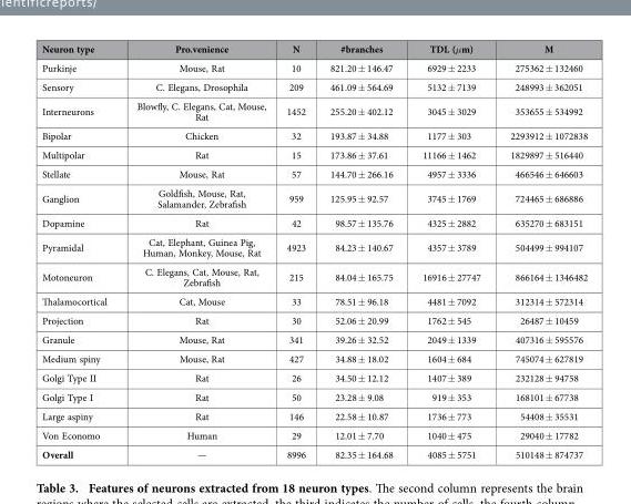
<table><thead><tr><td>Neuron type</td><td>Pro.venience</td><td>N</td><td>#branches</td><td>TDL (μm)</td><td>M</td></tr></thead><tbody><tr><td>Purkinje</td><td>Mouse, Rat</td><td>10</td><td>821.20 ± 146.47</td><td>6929 ± 2233</td><td>275362 ± 132460</td></tr><tr><td>Sensory</td><td>C. Elegans, Drosophila</td><td>209</td><td>461.09 ± 564.69</td><td>5132 ± 7139</td><td>248993 ± 362051</td></tr><tr><td>Interneurons</td><td>Blowfly, C. Elegans, Cat, Mouse, Rat</td><td>1452</td><td>255.20 ± 402.12</td><td>3045 ± 3029</td><td>353655 ± 534992</td></tr><tr><td>Bipolar</td><td>Chicken</td><td>32</td><td>193.87 ± 34.88</td><td>1177 ± 303</td><td>2293912 ± 1072838</td></tr><tr><td>Multipolar</td><td>Rat</td><td>15</td><td>173.86 ± 37.61</td><td>11166 ± 1462</td><td>1829897 ± 516440</td></tr><tr><td>Stellate</td><td>Mouse, Rat</td><td>57</td><td>144.70 ± 266.16</td><td>4957 ± 3336</td><td>466546 ± 646603</td></tr><tr><td>Ganglion</td><td>Goldfish, Mouse, Rat, Salamander, Zebrafish</td><td>959</td><td>125.95 ± 92.57</td><td>3745 ± 1769</td><td>724465 ± 686886</td></tr><tr><td>Dopamine</td><td>Rat</td><td>42</td><td>98.57 ± 135.76</td><td>4325 ± 2882</td><td>635270 ± 683151</td></tr><tr><td>Pyramidal</td><td>Cat, Elephant, Guinea Pig, Human, Monkey, Mouse, Rat</td><td>4923</td><td>84.23 ± 140.67</td><td>4357 ± 3789</td><td>504499 ± 994107</td></tr><tr><td>Motoneuron</td><td>C. Elegans, Cat, Mouse, Rat, Zebrafish</td><td>215</td><td>84.04 ± 165.75</td><td>16916 ± 27747</td><td>866164 ± 1346482</td></tr><tr><td>Thalamocortical</td><td>Cat, Mouse</td><td>33</td><td>78.51 ± 96.18</td><td>4481 ± 7092</td><td>312314 ± 572314</td></tr><tr><td>Projection</td><td>Rat</td><td>30</td><td>52.06 ± 20.99</td><td>1762 ± 545</td><td>26487 ± 10459</td></tr><tr><td>Granule</td><td>Mouse, Rat</td><td>341</td><td>39.26 ± 32.52</td><td>2049 ± 1339</td><td>407316 ± 595576</td></tr><tr><td>Medium spiny</td><td>Mouse, Rat</td><td>427</td><td>34.88 ± 18.02</td><td>1604 ± 684</td><td>745074 ± 627819</td></tr><tr><td>Golgi Type II</td><td>Rat</td><td>26</td><td>34.50 ± 12.12</td><td>1407 ± 389</td><td>232128 ± 94758</td></tr><tr><td>Golgi Type I</td><td>Rat</td><td>50</td><td>23.28 ± 9.08</td><td>919 ± 353</td><td>168101 ± 67738</td></tr><tr><td>Large aspiny</td><td>Rat</td><td>146</td><td>22.58 ± 10.87</td><td>1736 ± 773</td><td>54408 ± 35531</td></tr><tr><td>Von Economo</td><td>Human</td><td>29</td><td>12.01 ± 7.70</td><td>1040 ± 475</td><td>29040 ± 17782</td></tr><tr><td>Overall</td><td>—</td><td>8996</td><td>82.35 ± 164.68</td><td>4085 ± 5751</td><td>510148 ± 874737</td></tr></tbody></table>